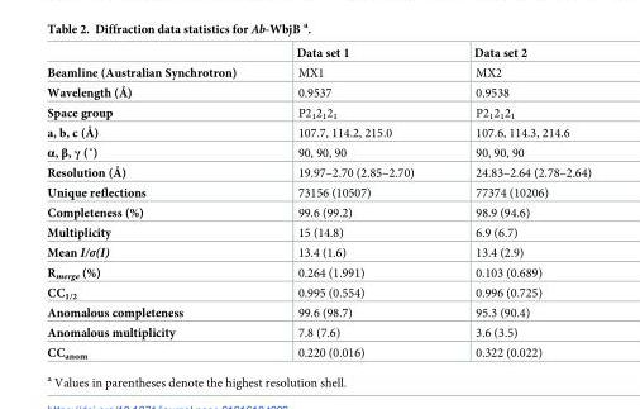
<table><thead><tr><td></td><td>Data set 1</td><td>Data set 2</td></tr></thead><tbody><tr><td>Beamline (Australian Synchrotron)</td><td>MX1</td><td>MX2</td></tr><tr><td>Wavelength (Å)</td><td>0.9537</td><td>0.9538</td></tr><tr><td>Space group</td><td>P2<sub>1</sub>2<sub>1</sub>2<sub>1</sub></td><td>P2<sub>1</sub>2<sub>1</sub>2<sub>1</sub></td></tr><tr><td>a, b, c (Å)</td><td>107.7, 114.2, 215.0</td><td>107.6, 114.3, 214.6</td></tr><tr><td>α, β, γ (˚)</td><td>90, 90, 90</td><td>90, 90, 90</td></tr><tr><td>Resolution (Å)</td><td>19.97–2.70 (2.85–2.70)</td><td>24.83–2.64 (2.78–2.64)</td></tr><tr><td>Unique reflections</td><td>73156 (10507)</td><td>77374 (10206)</td></tr><tr><td>Completeness (%)</td><td>99.6 (99.2)</td><td>98.9 (94.6)</td></tr><tr><td>Multiplicity</td><td>15 (14.8)</td><td>6.9 (6.7)</td></tr><tr><td>Mean I/σ(I)</td><td>13.4 (1.6)</td><td>13.4 (2.9)</td></tr><tr><td>R<sub>merge</sub> (%)</td><td>0.264 (1.991)</td><td>0.103 (0.689)</td></tr><tr><td>CC<sub>1/2</sub></td><td>0.995 (0.554)</td><td>0.996 (0.725)</td></tr><tr><td>Anomalous completeness</td><td>99.6 (98.7)</td><td>95.3 (90.4)</td></tr><tr><td>Anomalous multiplicity</td><td>7.8 (7.6)</td><td>3.6 (3.5)</td></tr><tr><td>CC<sub>anom</sub></td><td>0.220 (0.016)</td><td>0.322 (0.022)</td></tr></tbody></table>